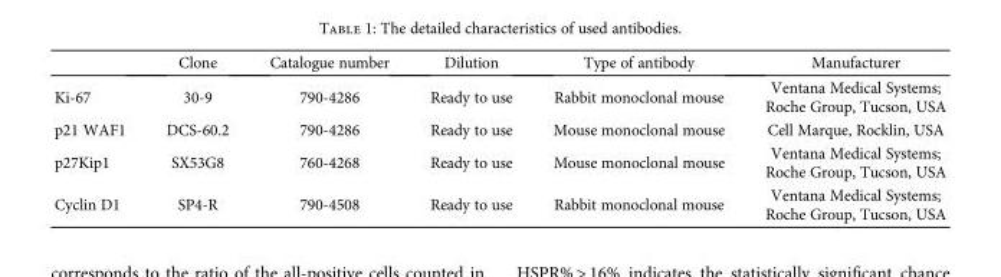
<table><thead><tr><td></td><td>Clone</td><td>Catalogue number</td><td>Dilution</td><td>Type of antibody</td><td>Manufacturer</td></tr></thead><tbody><tr><td>Ki-67</td><td>30-9</td><td>790-4286</td><td>Ready to use</td><td>Rabbit monoclonal mouse</td><td>Ventana Medical Systems; Roche Group, Tucson, USA</td></tr><tr><td>p21 WAF1</td><td>DCS-60.2</td><td>790-4286</td><td>Ready to use</td><td>Mouse monoclonal mouse</td><td>Cell Marque, Rocklin, USA</td></tr><tr><td>p27Kip1</td><td>SX53G8</td><td>760-4268</td><td>Ready to use</td><td>Mouse monoclonal mouse</td><td>Ventana Medical Systems; Roche Group, Tucson, USA</td></tr><tr><td>Cyclin D1</td><td>SP4-R</td><td>790-4508</td><td>Ready to use</td><td>Rabbit monoclonal mouse</td><td>Ventana Medical Systems; Roche Group, Tucson, USA</td></tr></tbody></table>